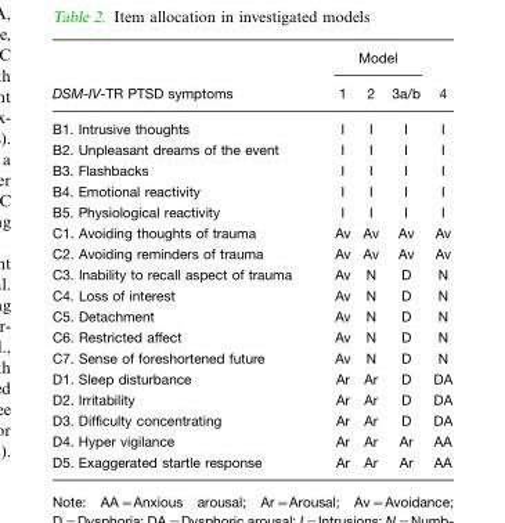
<table><thead><tr><td rowspan="2">DSM-IV-TR PTSD symptoms</td><td colspan="3">Model</td><td rowspan="2">4</td></tr><tr><td>1</td><td>2</td><td>3a/b</td></tr></thead><tbody><tr><td>B1. Intrusive thoughts</td><td>I</td><td>I</td><td>I</td><td>I</td></tr><tr><td>B2. Unpleasant dreams of the event</td><td>I</td><td>I</td><td>I</td><td>I</td></tr><tr><td>B3. Flashbacks</td><td>I</td><td>I</td><td>I</td><td>I</td></tr><tr><td>B4. Emotional reactivity</td><td>I</td><td>I</td><td>I</td><td>I</td></tr><tr><td>B5. Physiological reactivity</td><td>I</td><td>I</td><td>I</td><td>I</td></tr><tr><td>C1. Avoiding thoughts of trauma</td><td>Av</td><td>Av</td><td>Av</td><td>Av</td></tr><tr><td>C2. Avoiding reminders of trauma</td><td>Av</td><td>Av</td><td>Av</td><td>Av</td></tr><tr><td>C3. Inability to recall aspect of trauma</td><td>Av</td><td>N</td><td>D</td><td>N</td></tr><tr><td>C4. Loss of interest</td><td>Av</td><td>N</td><td>D</td><td>N</td></tr><tr><td>C5. Detachment</td><td>Av</td><td>N</td><td>D</td><td>N</td></tr><tr><td>C6. Restricted affect</td><td>Av</td><td>N</td><td>D</td><td>N</td></tr><tr><td>C7. Sense of foreshortened future</td><td>Av</td><td>N</td><td>D</td><td>N</td></tr><tr><td>D1. Sleep disturbance</td><td>Ar</td><td>Ar</td><td>D</td><td>DA</td></tr><tr><td>D2. Irritability</td><td>Ar</td><td>Ar</td><td>D</td><td>DA</td></tr><tr><td>D3. Difficulty concentrating</td><td>Ar</td><td>Ar</td><td>D</td><td>DA</td></tr><tr><td>D4. Hyper vigilance</td><td>Ar</td><td>Ar</td><td>Ar</td><td>AA</td></tr><tr><td>D5. Exaggerated startle response</td><td>Ar</td><td>Ar</td><td>Ar</td><td>AA</td></tr></tbody></table>